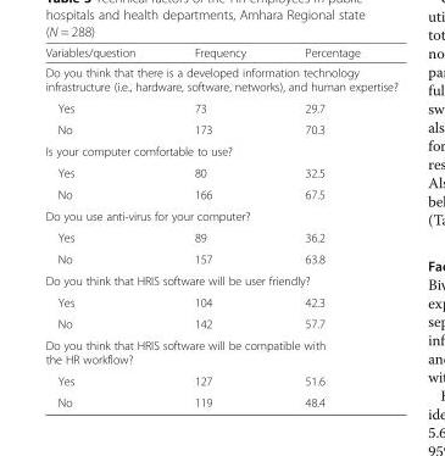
<table><thead><tr><td>Variables/question</td><td>Frequency</td><td>Percentage</td></tr></thead><tbody><tr><td colspan="3">Do you think that there is a developed information technology infrastructure (i.e., hardware, software, networks), and human expertise?</td></tr><tr><td>Yes</td><td>73</td><td>29.7</td></tr><tr><td>No</td><td>173</td><td>70.3</td></tr><tr><td colspan="3">Is your computer comfortable to use?</td></tr><tr><td>Yes</td><td>80</td><td>32.5</td></tr><tr><td>No</td><td>166</td><td>67.5</td></tr><tr><td colspan="3">Do you use anti-virus for your computer?</td></tr><tr><td>Yes</td><td>89</td><td>36.2</td></tr><tr><td>No</td><td>157</td><td>63.8</td></tr><tr><td colspan="3">Do you think that HRIS software will be user friendly?</td></tr><tr><td>Yes</td><td>104</td><td>42.3</td></tr><tr><td>No</td><td>142</td><td>57.7</td></tr><tr><td colspan="3">Do you think that HRIS software will be compatible with the HR workflow?</td></tr><tr><td>Yes</td><td>127</td><td>51.6</td></tr><tr><td>No</td><td>119</td><td>48.4</td></tr></tbody></table>